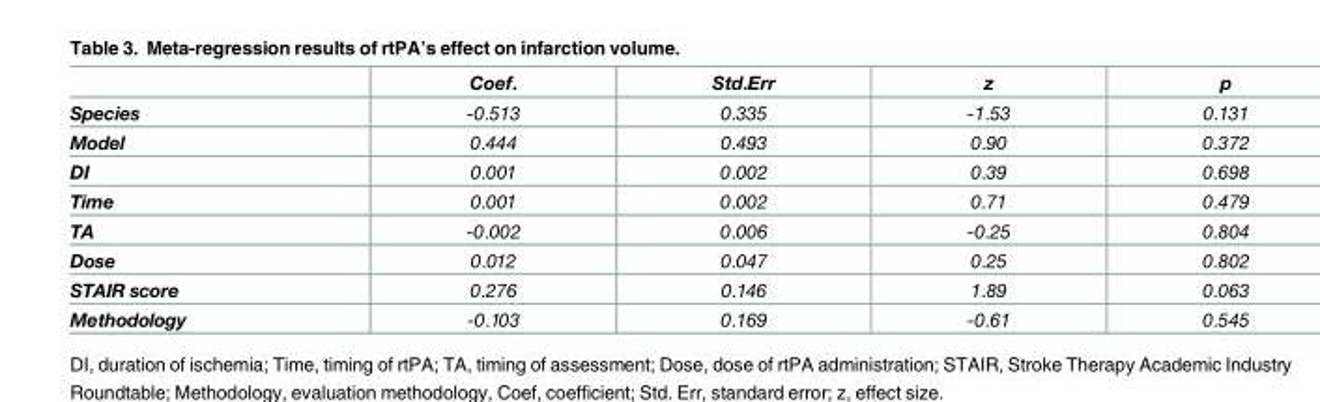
<table><thead><tr><td></td><td>Coef.</td><td>Std.Err</td><td>z</td><td>p</td></tr></thead><tbody><tr><td>Species</td><td>-0.513</td><td>0.335</td><td>-1.53</td><td>0.131</td></tr><tr><td>Model</td><td>0.444</td><td>0.493</td><td>0.90</td><td>0.372</td></tr><tr><td>DI</td><td>0.001</td><td>0.002</td><td>0.39</td><td>0.698</td></tr><tr><td>Time</td><td>0.001</td><td>0.002</td><td>0.71</td><td>0.479</td></tr><tr><td>TA</td><td>-0.002</td><td>0.006</td><td>-0.25</td><td>0.804</td></tr><tr><td>Dose</td><td>0.012</td><td>0.047</td><td>0.25</td><td>0.802</td></tr><tr><td>STAIR score</td><td>0.276</td><td>0.146</td><td>1.89</td><td>0.063</td></tr><tr><td>Methodology</td><td>-0.103</td><td>0.169</td><td>-0.61</td><td>0.545</td></tr></tbody></table>